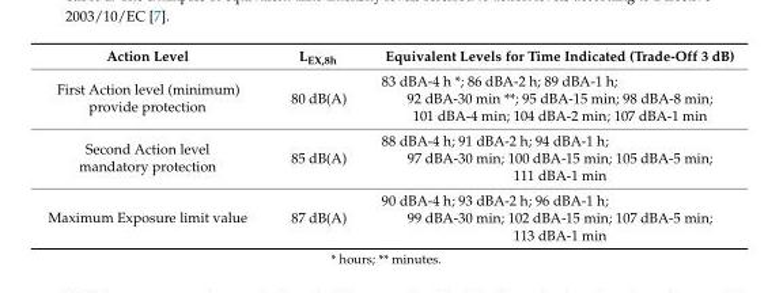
<table><thead><tr><td>Action Level</td><td>L<sub>EX,8h</sub></td><td>Equivalent Levels for Time Indicated (Trade-Off 3 dB)</td></tr></thead><tbody><tr><td rowspan="3">First Action level (minimum) provide protection</td><td rowspan="3">80 dB(A)</td><td>83 dBA-4 h *; 86 dBA-2 h; 89 dBA-1 h;</td></tr><tr><td>92 dBA-30 min **; 95 dBA-15 min; 98 dBA-8 min;</td></tr><tr><td>101 dBA-4 min; 104 dBA-2 min; 107 dBA-1 min</td></tr><tr><td rowspan="3">Second Action level mandatory protection</td><td rowspan="3">85 dB(A)</td><td>88 dBA-4 h; 91 dBA-2 h; 94 dBA-1 h;</td></tr><tr><td>97 dBA-30 min; 100 dBA-15 min; 105 dBA-5 min;</td></tr><tr><td>111 dBA-1 min</td></tr><tr><td rowspan="3">Maximum Exposure limit value</td><td rowspan="3">87 dB(A)</td><td>90 dBA-4 h; 93 dBA-2 h; 96 dBA-1 h;</td></tr><tr><td>99 dBA-30 min; 102 dBA-15 min; 107 dBA-5 min;</td></tr><tr><td>113 dBA-1 min</td></tr></tbody></table>